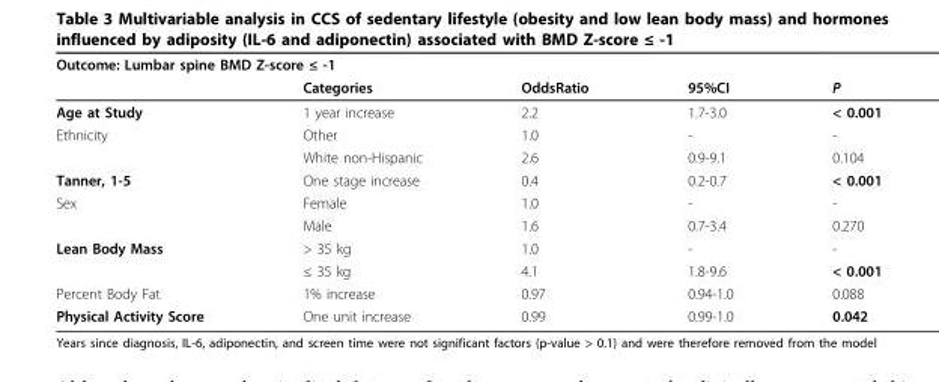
<table><thead><tr><td colspan="5">Outcome: Lumbar spine BMD Z-score ≤ -1</td></tr><tr><td></td><td>Categories</td><td>OddsRatio</td><td>95%CI</td><td>P</td></tr></thead><tbody><tr><td>Age at Study</td><td>1 year increase</td><td>2.2</td><td>1.7-3.0</td><td>&lt; 0.001</td></tr><tr><td rowspan="2">Ethnicity</td><td>Other</td><td>1.0</td><td>-</td><td>-</td></tr><tr><td>White non-Hispanic</td><td>2.6</td><td>0.9-9.1</td><td>0.104</td></tr><tr><td>Tanner, 1-5</td><td>One stage increase</td><td>0.4</td><td>0.2-0.7</td><td>&lt; 0.001</td></tr><tr><td rowspan="2">Sex</td><td>Female</td><td>1.0</td><td>-</td><td>-</td></tr><tr><td>Male</td><td>1.6</td><td>0.7-3.4</td><td>0.270</td></tr><tr><td rowspan="2">Lean Body Mass</td><td>&gt; 35 kg</td><td>1.0</td><td>-</td><td>-</td></tr><tr><td>≤ 35 kg</td><td>4.1</td><td>1.8-9.6</td><td>&lt; 0.001</td></tr><tr><td>Percent Body Fat</td><td>1% increase</td><td>0.97</td><td>0.94-1.0</td><td>0.088</td></tr><tr><td>Physical Activity Score</td><td>One unit increase</td><td>0.99</td><td>0.99-1.0</td><td>0.042</td></tr></tbody></table>